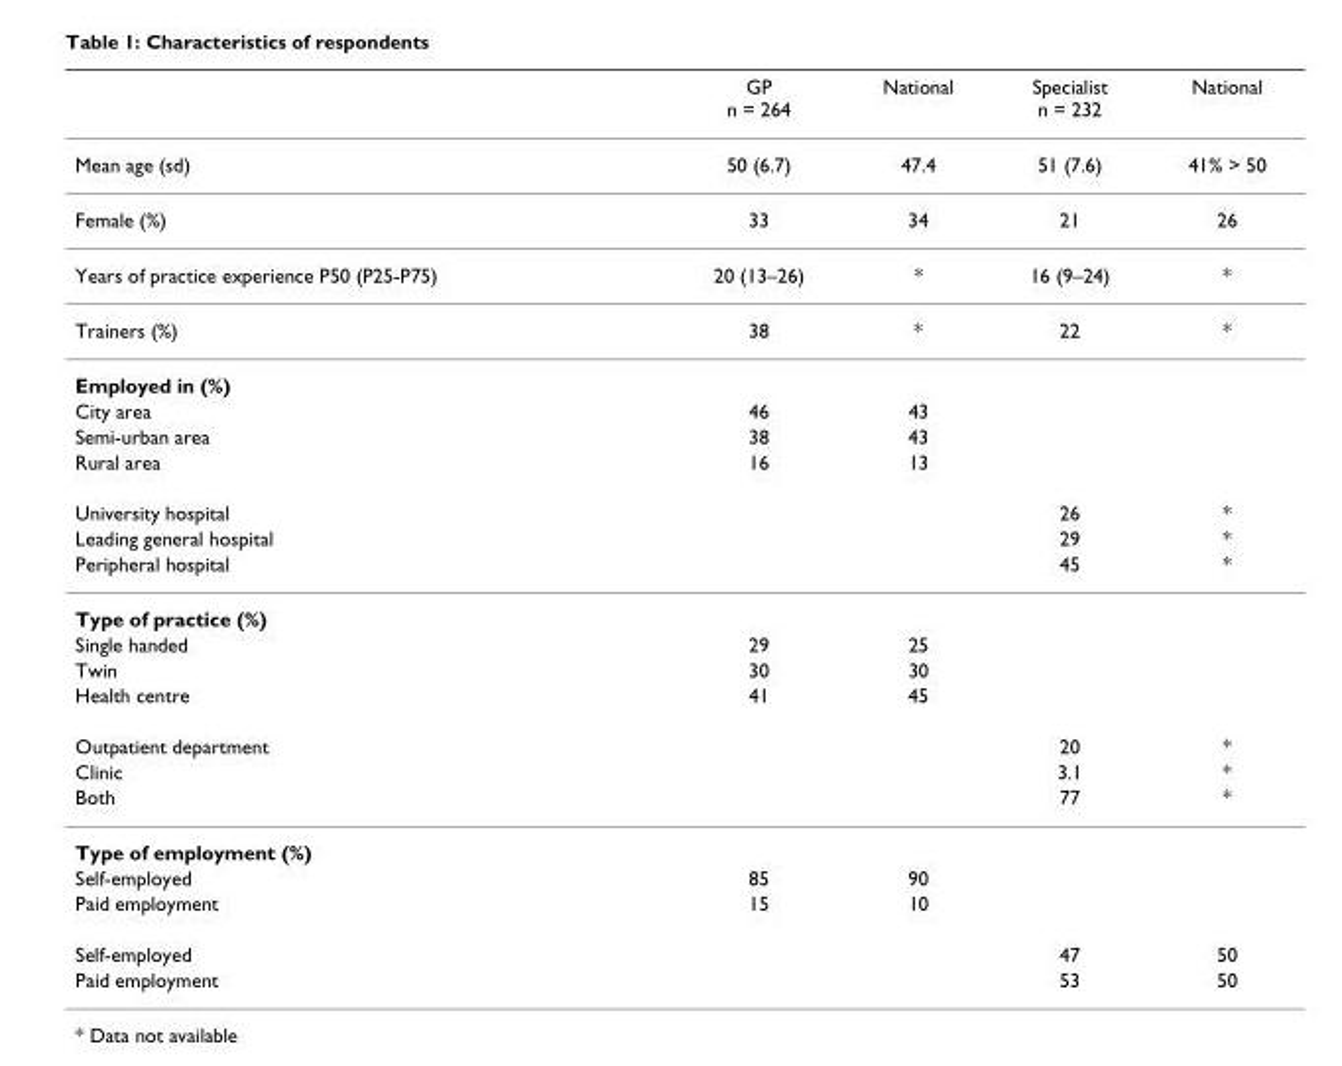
<table><thead><tr><td></td><td>GP n = 264</td><td>National</td><td>Specialist n = 232</td><td>National</td></tr></thead><tbody><tr><td>Mean age (sd)</td><td>50 (6.7)</td><td>47.4</td><td>51 (7.6)</td><td>41% &gt; 50</td></tr><tr><td>Female (%)</td><td>33</td><td>34</td><td>21</td><td>26</td></tr><tr><td>Years of practice experience P50 (P25-P75)</td><td>20 (13–26)</td><td>*</td><td>16 (9–24)</td><td>*</td></tr><tr><td>Trainers (%)</td><td>38</td><td>*</td><td>22</td><td>*</td></tr><tr><td colspan="5">Employed in (%)</td></tr><tr><td>City area</td><td>46</td><td>43</td><td></td><td></td></tr><tr><td>Semi-urban area</td><td>38</td><td>43</td><td></td><td></td></tr><tr><td>Rural area</td><td>16</td><td>13</td><td></td><td></td></tr><tr><td>University hospital</td><td></td><td></td><td>26</td><td>*</td></tr><tr><td>Leading general hospital</td><td></td><td></td><td>29</td><td>*</td></tr><tr><td>Peripheral hospital</td><td></td><td></td><td>45</td><td>*</td></tr><tr><td colspan="5">Type of practice (%)</td></tr><tr><td>Single handed</td><td>29</td><td>25</td><td></td><td></td></tr><tr><td>Twin</td><td>30</td><td>30</td><td></td><td></td></tr><tr><td>Health centre</td><td>41</td><td>45</td><td></td><td></td></tr><tr><td>Outpatient department</td><td></td><td></td><td>20</td><td>*</td></tr><tr><td>Clinic</td><td></td><td></td><td>3.1</td><td>*</td></tr><tr><td>Both</td><td></td><td></td><td>77</td><td>*</td></tr><tr><td colspan="5">Type of employment (%)</td></tr><tr><td>Self-employed</td><td>85</td><td>90</td><td></td><td></td></tr><tr><td>Paid employment</td><td>15</td><td>10</td><td></td><td></td></tr><tr><td>Self-employed</td><td></td><td></td><td>47</td><td>50</td></tr><tr><td>Paid employment</td><td></td><td></td><td>53</td><td>50</td></tr></tbody></table>